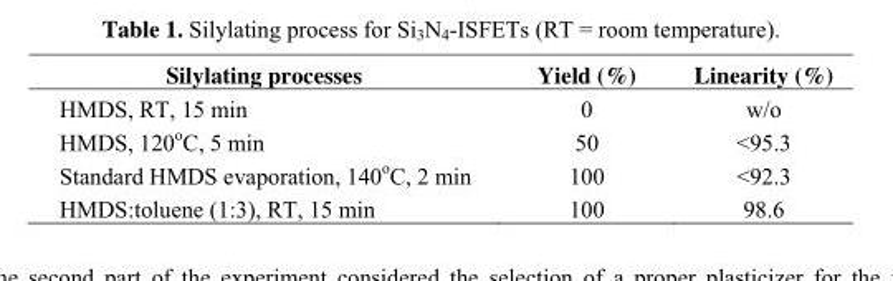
<table><thead><tr><td>Silylating processes</td><td>Yield (%)</td><td>Linearity (%)</td></tr></thead><tbody><tr><td>HMDS, RT, 15 min</td><td>0</td><td>w/o</td></tr><tr><td>HMDS, 120°C, 5 min</td><td>50</td><td>&lt;95.3</td></tr><tr><td>Standard HMDS evaporation, 140°C, 2 min</td><td>100</td><td>&lt;92.3</td></tr><tr><td>HMDS:toluene (1:3), RT, 15 min</td><td>100</td><td>98.6</td></tr></tbody></table>